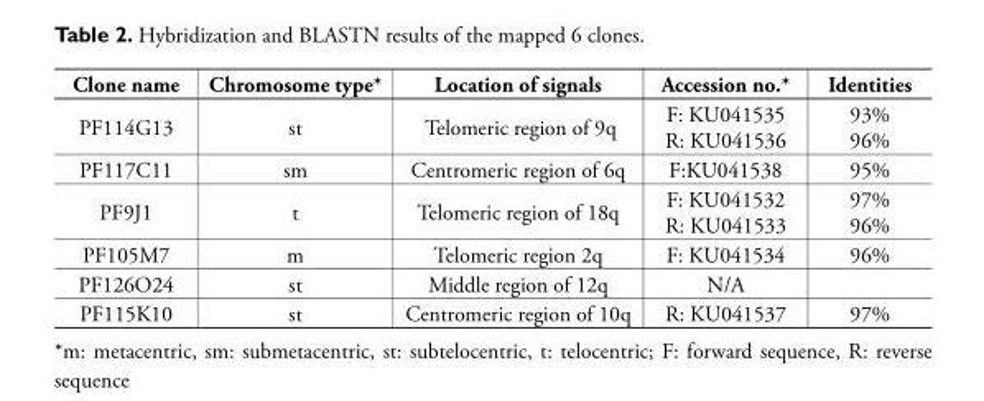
<table><thead><tr><td>Clone name</td><td>Chromosome type*</td><td>Location of signals</td><td>Accession no.*</td><td>Identities</td></tr></thead><tbody><tr><td>PF114G13</td><td>st</td><td>Telomeric region of 9q</td><td>F: KU041535 R: KU041536</td><td>93% 96%</td></tr><tr><td>PF117C11</td><td>sm</td><td>Centromeric region of 6q</td><td>F:KU041538</td><td>95%</td></tr><tr><td>PF9J1</td><td>t</td><td>Telomeric region of 18q</td><td>F: KU041532 R: KU041533</td><td>97% 96%</td></tr><tr><td>PF105M7</td><td>m</td><td>Telomeric region 2q</td><td>F: KU041534</td><td>96%</td></tr><tr><td>PF126O24</td><td>st</td><td>Middle region of 12q</td><td>N/A</td><td></td></tr><tr><td>PF115K10</td><td>st</td><td>Centromeric region of 10q</td><td>R: KU041537</td><td>97%</td></tr></tbody></table>